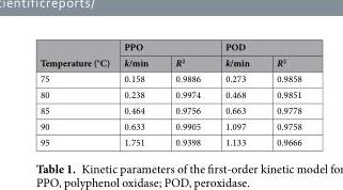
<table><thead><tr><td rowspan="2">Temperature (°C)</td><td colspan="2">PPO</td><td colspan="2">POD</td></tr><tr><td>k/min</td><td>R<sup>2</sup></td><td>k/min</td><td>R<sup>2</sup></td></tr></thead><tbody><tr><td>75</td><td>0.158</td><td>0.9886</td><td>0.273</td><td>0.9858</td></tr><tr><td>80</td><td>0.238</td><td>0.9974</td><td>0.468</td><td>0.9851</td></tr><tr><td>85</td><td>0.464</td><td>0.9756</td><td>0.663</td><td>0.9778</td></tr><tr><td>90</td><td>0.633</td><td>0.9905</td><td>1.097</td><td>0.9758</td></tr><tr><td>95</td><td>1.751</td><td>0.9398</td><td>1.133</td><td>0.9666</td></tr></tbody></table>